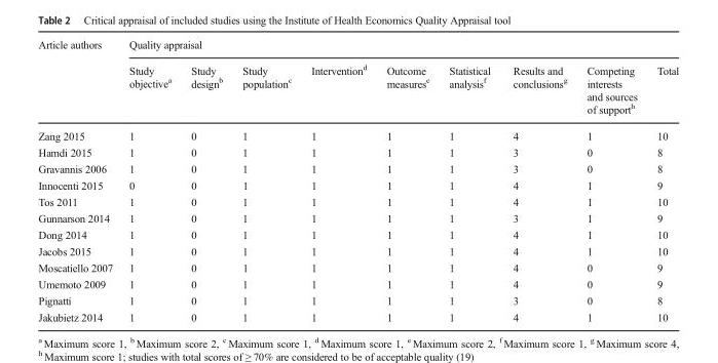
<table><thead><tr><td rowspan="2">Article authors</td><td colspan="9">Quality appraisal</td></tr><tr><td>Study objective<sup>a</sup></td><td>Study design<sup>b</sup></td><td>Study population<sup>c</sup></td><td>Intervention<sup>d</sup></td><td>Outcome measures<sup>e</sup></td><td>Statistical analysis<sup>f</sup></td><td>Results and conclusions<sup>g</sup></td><td>Competing interests and sources of support<sup>h</sup></td><td>Total</td></tr></thead><tbody><tr><td>Zang 2015</td><td>1</td><td>0</td><td>1</td><td>1</td><td>1</td><td>1</td><td>4</td><td>1</td><td>10</td></tr><tr><td>Hamdi 2015</td><td>1</td><td>0</td><td>1</td><td>1</td><td>1</td><td>1</td><td>3</td><td>0</td><td>8</td></tr><tr><td>Gravannis 2006</td><td>1</td><td>0</td><td>1</td><td>1</td><td>1</td><td>1</td><td>3</td><td>0</td><td>8</td></tr><tr><td>Innocenti 2015</td><td>0</td><td>0</td><td>1</td><td>1</td><td>1</td><td>1</td><td>4</td><td>1</td><td>9</td></tr><tr><td>Tos 2011</td><td>1</td><td>0</td><td>1</td><td>1</td><td>1</td><td>1</td><td>4</td><td>1</td><td>10</td></tr><tr><td>Gunnarson 2014</td><td>1</td><td>0</td><td>1</td><td>1</td><td>1</td><td>1</td><td>3</td><td>1</td><td>9</td></tr><tr><td>Dong 2014</td><td>1</td><td>0</td><td>1</td><td>1</td><td>1</td><td>1</td><td>4</td><td>1</td><td>10</td></tr><tr><td>Jacobs 2015</td><td>1</td><td>0</td><td>1</td><td>1</td><td>1</td><td>1</td><td>4</td><td>1</td><td>10</td></tr><tr><td>Moscatiello 2007</td><td>1</td><td>0</td><td>1</td><td>1</td><td>1</td><td>1</td><td>4</td><td>0</td><td>9</td></tr><tr><td>Umemoto 2009</td><td>1</td><td>0</td><td>1</td><td>1</td><td>1</td><td>1</td><td>4</td><td>0</td><td>9</td></tr><tr><td>Pignatti</td><td>1</td><td>0</td><td>1</td><td>1</td><td>1</td><td>1</td><td>3</td><td>0</td><td>8</td></tr><tr><td>Jakubietz 2014</td><td>1</td><td>0</td><td>1</td><td>1</td><td>1</td><td>1</td><td>4</td><td>1</td><td>10</td></tr></tbody></table>